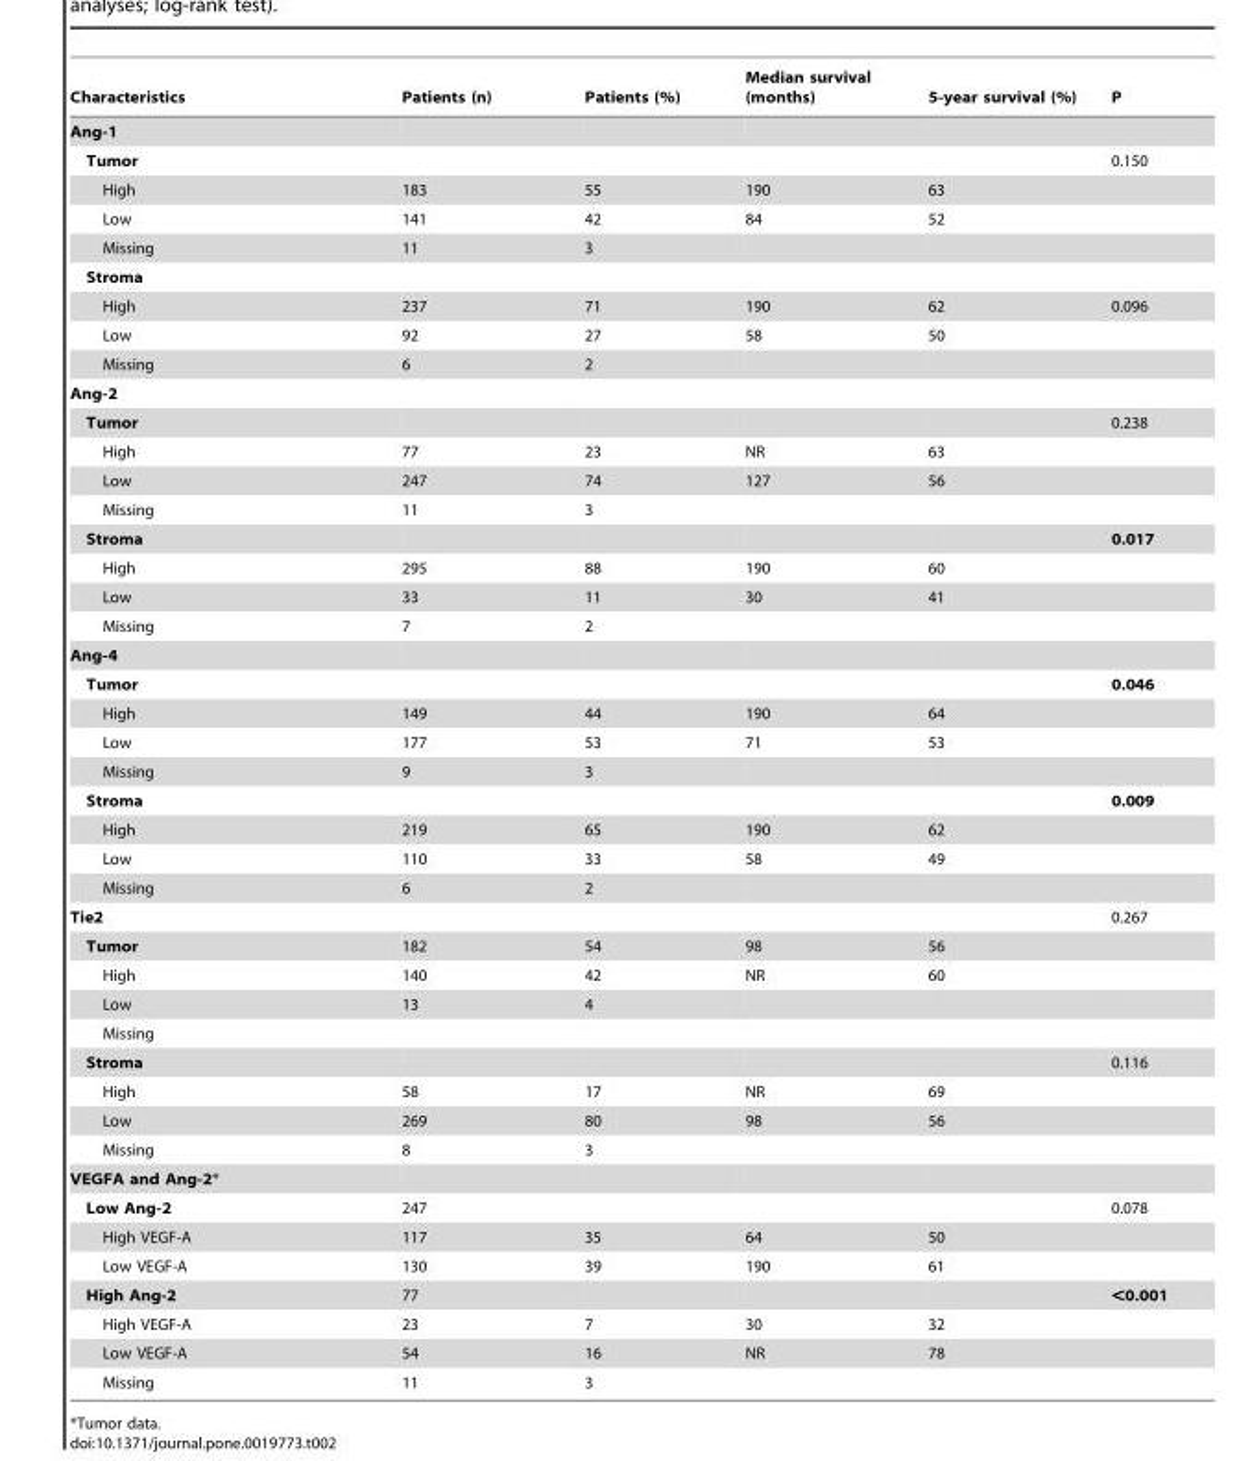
<table><thead><tr><td>Characteristics</td><td>Patients (n)</td><td>Patients (%)</td><td>Median survival (months)</td><td>5-year survival (%)</td><td>P</td></tr></thead><tbody><tr><td colspan="6">Ang-1</td></tr><tr><td>Tumor</td><td></td><td></td><td></td><td></td><td>0.150</td></tr><tr><td>High</td><td>183</td><td>55</td><td>190</td><td>63</td><td></td></tr><tr><td>Low</td><td>141</td><td>42</td><td>84</td><td>52</td><td></td></tr><tr><td>Missing</td><td>11</td><td>3</td><td></td><td></td><td></td></tr><tr><td colspan="6">Stroma</td></tr><tr><td>High</td><td>237</td><td>71</td><td>190</td><td>62</td><td>0.096</td></tr><tr><td>Low</td><td>92</td><td>27</td><td>58</td><td>50</td><td></td></tr><tr><td>Missing</td><td>6</td><td>2</td><td></td><td></td><td></td></tr><tr><td colspan="6">Ang-2</td></tr><tr><td>Tumor</td><td></td><td></td><td></td><td></td><td>0.238</td></tr><tr><td>High</td><td>77</td><td>23</td><td>NR</td><td>63</td><td></td></tr><tr><td>Low</td><td>247</td><td>74</td><td>127</td><td>56</td><td></td></tr><tr><td>Missing</td><td>11</td><td>3</td><td></td><td></td><td></td></tr><tr><td>Stroma</td><td></td><td></td><td></td><td></td><td>0.017</td></tr><tr><td>High</td><td>295</td><td>88</td><td>190</td><td>60</td><td></td></tr><tr><td>Low</td><td>33</td><td>11</td><td>30</td><td>41</td><td></td></tr><tr><td>Missing</td><td>7</td><td>2</td><td></td><td></td><td></td></tr><tr><td colspan="6">Ang-4</td></tr><tr><td>Tumor</td><td></td><td></td><td></td><td></td><td>0.046</td></tr><tr><td>High</td><td>149</td><td>44</td><td>190</td><td>64</td><td></td></tr><tr><td>Low</td><td>177</td><td>53</td><td>71</td><td>53</td><td></td></tr><tr><td>Missing</td><td>9</td><td>3</td><td></td><td></td><td></td></tr><tr><td>Stroma</td><td></td><td></td><td></td><td></td><td>0.009</td></tr><tr><td>High</td><td>219</td><td>65</td><td>190</td><td>62</td><td></td></tr><tr><td>Low</td><td>110</td><td>33</td><td>58</td><td>49</td><td></td></tr><tr><td>Missing</td><td>6</td><td>2</td><td></td><td></td><td></td></tr><tr><td>Tie2</td><td></td><td></td><td></td><td></td><td>0.267</td></tr><tr><td>Tumor</td><td>182</td><td>54</td><td>98</td><td>56</td><td></td></tr><tr><td>High</td><td>140</td><td>42</td><td>NR</td><td>60</td><td></td></tr><tr><td>Low</td><td>13</td><td>4</td><td></td><td></td><td></td></tr><tr><td colspan="6">Missing</td></tr><tr><td>Stroma</td><td></td><td></td><td></td><td></td><td>0.116</td></tr><tr><td>High</td><td>58</td><td>17</td><td>NR</td><td>69</td><td></td></tr><tr><td>Low</td><td>269</td><td>80</td><td>98</td><td>56</td><td></td></tr><tr><td>Missing</td><td>8</td><td>3</td><td></td><td></td><td></td></tr><tr><td colspan="6">VEGFA and Ang-2*</td></tr><tr><td>Low Ang-2</td><td>247</td><td></td><td></td><td></td><td>0.078</td></tr><tr><td>High VEGF-A</td><td>117</td><td>35</td><td>64</td><td>50</td><td></td></tr><tr><td>Low VEGF-A</td><td>130</td><td>39</td><td>190</td><td>61</td><td></td></tr><tr><td>High Ang-2</td><td>77</td><td></td><td></td><td></td><td>&lt;0.001</td></tr><tr><td>High VEGF-A</td><td>23</td><td>7</td><td>30</td><td>32</td><td></td></tr><tr><td>Low VEGF-A</td><td>54</td><td>16</td><td>NR</td><td>78</td><td></td></tr><tr><td>Missing</td><td>11</td><td>3</td><td></td><td></td><td></td></tr></tbody></table>